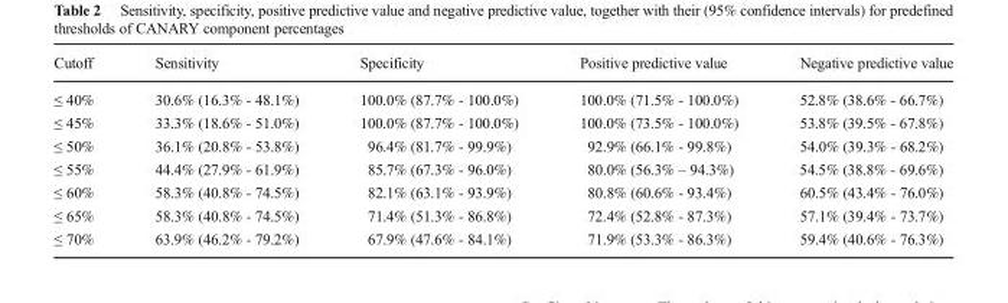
<table><thead><tr><td>Cutoff</td><td>Sensitivity</td><td>Specificity</td><td>Positive predictive value</td><td>Negative predictive value</td></tr></thead><tbody><tr><td>≤ 40%</td><td>30.6% (16.3% - 48.1%)</td><td>100.0% (87.7% - 100.0%)</td><td>100.0% (71.5% - 100.0%)</td><td>52.8% (38.6% - 66.7%)</td></tr><tr><td>≤ 45%</td><td>33.3% (18.6% - 51.0%)</td><td>100.0% (87.7% - 100.0%)</td><td>100.0% (73.5% - 100.0%)</td><td>53.8% (39.5% - 67.8%)</td></tr><tr><td>≤ 50%</td><td>36.1% (20.8% - 53.8%)</td><td>96.4% (81.7% - 99.9%)</td><td>92.9% (66.1% - 99.8%)</td><td>54.0% (39.3% - 68.2%)</td></tr><tr><td>≤ 55%</td><td>44.4% (27.9% - 61.9%)</td><td>85.7% (67.3% - 96.0%)</td><td>80.0% (56.3% – 94.3%)</td><td>54.5% (38.8% - 69.6%)</td></tr><tr><td>≤ 60%</td><td>58.3% (40.8% - 74.5%)</td><td>82.1% (63.1% - 93.9%)</td><td>80.8% (60.6% - 93.4%)</td><td>60.5% (43.4% - 76.0%)</td></tr><tr><td>≤ 65%</td><td>58.3% (40.8% - 74.5%)</td><td>71.4% (51.3% - 86.8%)</td><td>72.4% (52.8% - 87.3%)</td><td>57.1% (39.4% - 73.7%)</td></tr><tr><td>≤ 70%</td><td>63.9% (46.2% - 79.2%)</td><td>67.9% (47.6% - 84.1%)</td><td>71.9% (53.3% - 86.3%)</td><td>59.4% (40.6% - 76.3%)</td></tr></tbody></table>